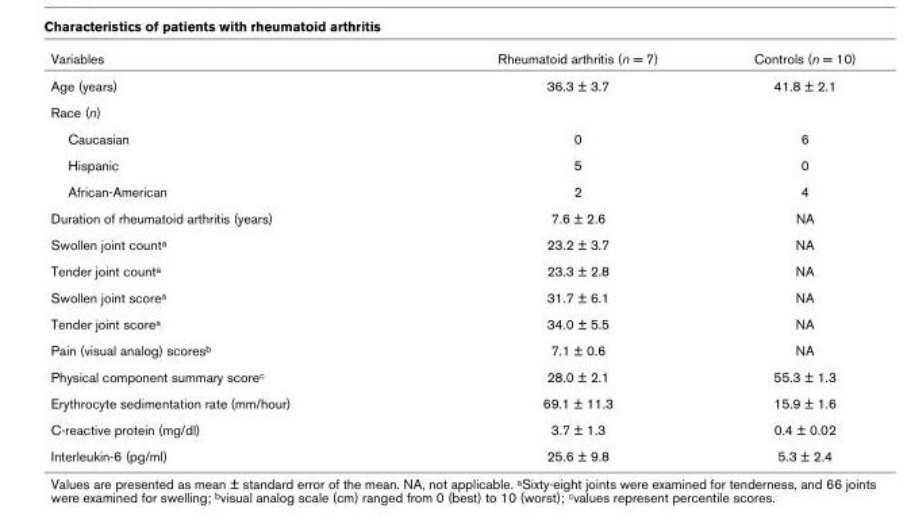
<table><thead><tr><td>Variables</td><td>Rheumatoid arthritis (n = 7)</td><td>Controls (n = 10)</td></tr></thead><tbody><tr><td>Age (years)</td><td>36.3 ± 3.7</td><td>41.8 ± 2.1</td></tr><tr><td colspan="3">Race (n)</td></tr><tr><td>Caucasian</td><td>0</td><td>6</td></tr><tr><td>Hispanic</td><td>5</td><td>0</td></tr><tr><td>African-American</td><td>2</td><td>4</td></tr><tr><td>Duration of rheumatoid arthritis (years)</td><td>7.6 ± 2.6</td><td>NA</td></tr><tr><td>Swollen joint count<sup>a</sup></td><td>23.2 ± 3.7</td><td>NA</td></tr><tr><td>Tender joint count<sup>a</sup></td><td>23.3 ± 2.8</td><td>NA</td></tr><tr><td>Swollen joint score<sup>a</sup></td><td>31.7 ± 6.1</td><td>NA</td></tr><tr><td>Tender joint score<sup>a</sup></td><td>34.0 ± 5.5</td><td>NA</td></tr><tr><td>Pain (visual analog) scores<sup>b</sup></td><td>7.1 ± 0.6</td><td>NA</td></tr><tr><td>Physical component summary score<sup>c</sup></td><td>28.0 ± 2.1</td><td>55.3 ± 1.3</td></tr><tr><td>Erythrocyte sedimentation rate (mm/hour)</td><td>69.1 ± 11.3</td><td>15.9 ± 1.6</td></tr><tr><td>C-reactive protein (mg/dl)</td><td>3.7 ± 1.3</td><td>0.4 ± 0.02</td></tr><tr><td>Interleukin-6 (pg/ml)</td><td>25.6 ± 9.8</td><td>5.3 ± 2.4</td></tr></tbody></table>